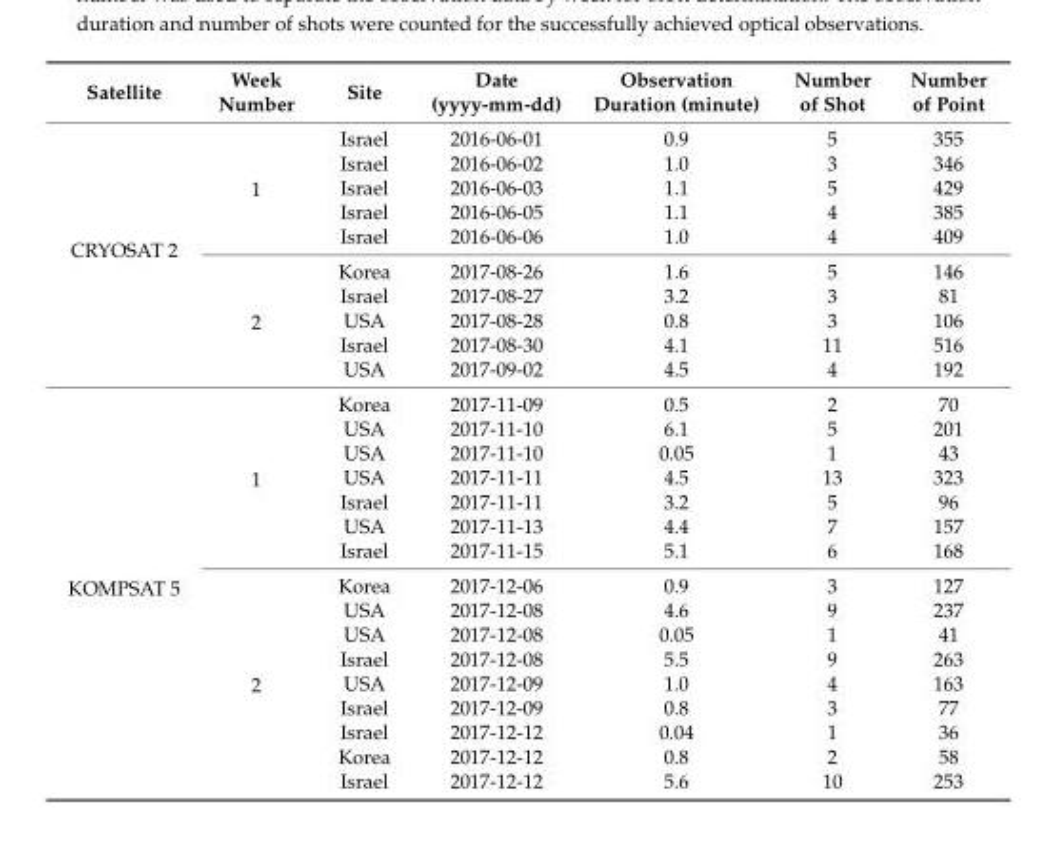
<table><thead><tr><td>Satellite</td><td>Week Number</td><td>Site</td><td>Date (yyyy-mm-dd)</td><td>Observation Duration (minute)</td><td>Number of Shot</td><td>Number of Point</td></tr></thead><tbody><tr><td rowspan="10">CRYOSAT 2</td><td rowspan="5">1</td><td>Israel</td><td>2016-06-01</td><td>0.9</td><td>5</td><td>355</td></tr><tr><td>Israel</td><td>2016-06-02</td><td>1.0</td><td>3</td><td>346</td></tr><tr><td>Israel</td><td>2016-06-03</td><td>1.1</td><td>5</td><td>429</td></tr><tr><td>Israel</td><td>2016-06-05</td><td>1.1</td><td>4</td><td>385</td></tr><tr><td>Israel</td><td>2016-06-06</td><td>1.0</td><td>4</td><td>409</td></tr><tr><td rowspan="5">2</td><td>Korea</td><td>2017-08-26</td><td>1.6</td><td>5</td><td>146</td></tr><tr><td>Israel</td><td>2017-08-27</td><td>3.2</td><td>3</td><td>81</td></tr><tr><td>USA</td><td>2017-08-28</td><td>0.8</td><td>3</td><td>106</td></tr><tr><td>Israel</td><td>2017-08-30</td><td>4.1</td><td>11</td><td>516</td></tr><tr><td>USA</td><td>2017-09-02</td><td>4.5</td><td>4</td><td>192</td></tr><tr><td rowspan="16">KOMPSAT 5</td><td rowspan="7">1</td><td>Korea</td><td>2017-11-09</td><td>0.5</td><td>2</td><td>70</td></tr><tr><td>USA</td><td>2017-11-10</td><td>6.1</td><td>5</td><td>201</td></tr><tr><td>USA</td><td>2017-11-10</td><td>0.05</td><td>1</td><td>43</td></tr><tr><td>USA</td><td>2017-11-11</td><td>4.5</td><td>13</td><td>323</td></tr><tr><td>Israel</td><td>2017-11-11</td><td>3.2</td><td>5</td><td>96</td></tr><tr><td>USA</td><td>2017-11-13</td><td>4.4</td><td>7</td><td>157</td></tr><tr><td>Israel</td><td>2017-11-15</td><td>5.1</td><td>6</td><td>168</td></tr><tr><td rowspan="9">2</td><td>Korea</td><td>2017-12-06</td><td>0.9</td><td>3</td><td>127</td></tr><tr><td>USA</td><td>2017-12-08</td><td>4.6</td><td>9</td><td>237</td></tr><tr><td>USA</td><td>2017-12-08</td><td>0.05</td><td>1</td><td>41</td></tr><tr><td>Israel</td><td>2017-12-08</td><td>5.5</td><td>9</td><td>263</td></tr><tr><td>USA</td><td>2017-12-09</td><td>1.0</td><td>4</td><td>163</td></tr><tr><td>Israel</td><td>2017-12-09</td><td>0.8</td><td>3</td><td>77</td></tr><tr><td>Israel</td><td>2017-12-12</td><td>0.04</td><td>1</td><td>36</td></tr><tr><td>Korea</td><td>2017-12-12</td><td>0.8</td><td>2</td><td>58</td></tr><tr><td>Israel</td><td>2017-12-12</td><td>5.6</td><td>10</td><td>253</td></tr></tbody></table>